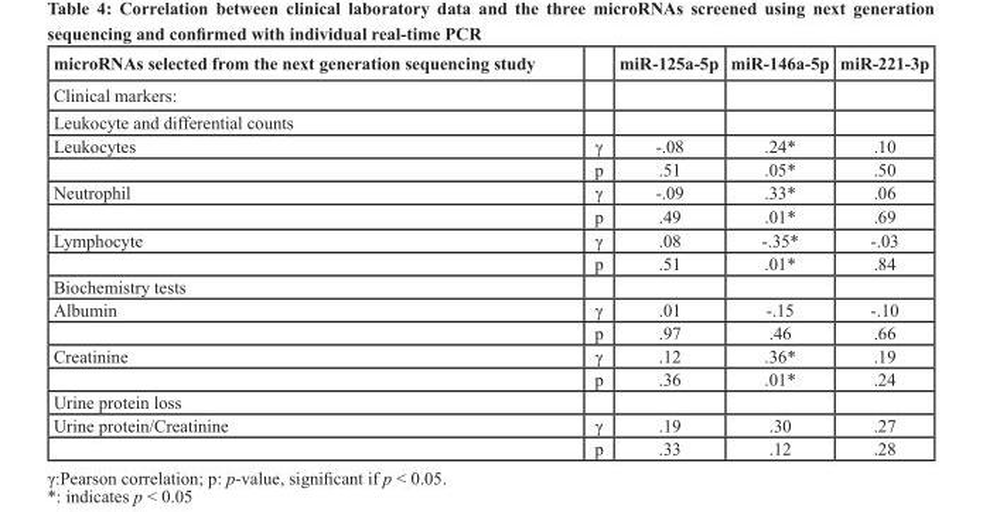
<table><thead><tr><td>microRNAs selected from the next generation sequencing study</td><td></td><td>miR-125a-5p</td><td>miR-146a-5p</td><td>miR-221-3p</td></tr></thead><tbody><tr><td colspan="5">Clinical markers:</td></tr><tr><td colspan="5">Leukocyte and differential counts</td></tr><tr><td rowspan="2">Leukocytes</td><td>γ</td><td>-.08</td><td>.24*</td><td>.10</td></tr><tr><td>p</td><td>.51</td><td>.05*</td><td>.50</td></tr><tr><td rowspan="2">Neutrophil</td><td>γ</td><td>-.09</td><td>.33*</td><td>.06</td></tr><tr><td>p</td><td>.49</td><td>.01*</td><td>.69</td></tr><tr><td rowspan="2">Lymphocyte</td><td>γ</td><td>.08</td><td>-.35*</td><td>-.03</td></tr><tr><td>p</td><td>.51</td><td>.01*</td><td>.84</td></tr><tr><td colspan="5">Biochemistry tests</td></tr><tr><td rowspan="2">Albumin</td><td>γ</td><td>.01</td><td>-.15</td><td>-.10</td></tr><tr><td>p</td><td>.97</td><td>.46</td><td>.66</td></tr><tr><td rowspan="2">Creatinine</td><td>γ</td><td>.12</td><td>.36*</td><td>.19</td></tr><tr><td>p</td><td>.36</td><td>.01*</td><td>.24</td></tr><tr><td colspan="5">Urine protein loss</td></tr><tr><td rowspan="2">Urine protein/Creatinine</td><td>γ</td><td>.19</td><td>.30</td><td>.27</td></tr><tr><td>p</td><td>.33</td><td>.12</td><td>.28</td></tr></tbody></table>